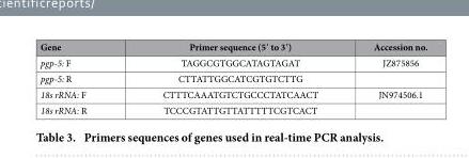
<table><thead><tr><td>Gene</td><td>Primer sequence (5′ to 3′)</td><td>Accession no.</td></tr></thead><tbody><tr><td>pgp-5: F</td><td>TAGGCGTGGCATAGTAGAT</td><td>JZ875856</td></tr><tr><td>pgp-5: R</td><td>CTTATTGGCATCGTGTCTTG</td><td></td></tr><tr><td>18s rRNA: F</td><td>CTTTCAAATGTCTGCCCTATCAACT</td><td>JN974506.1</td></tr><tr><td>18s rRNA: R</td><td>TCCCGTATTGTTATTTTTCGTCACT</td><td></td></tr></tbody></table>